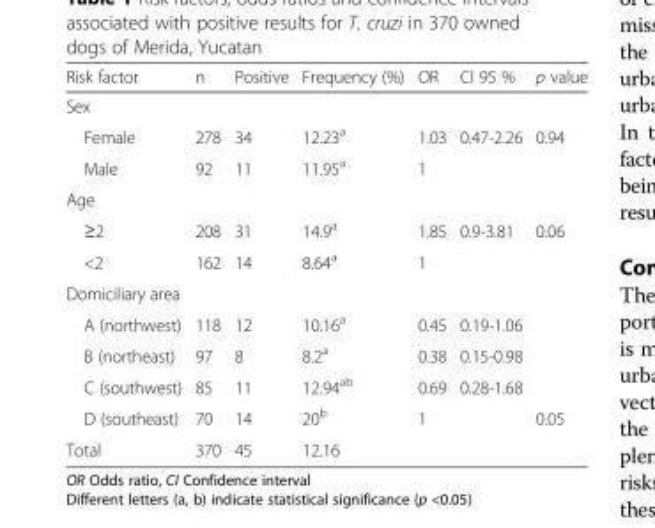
<table><thead><tr><td>Risk factor</td><td>n</td><td>Positive</td><td>Frequency (%)</td><td>OR</td><td>CI 95 %</td><td>p value</td></tr></thead><tbody><tr><td colspan="7">Sex</td></tr><tr><td>Female</td><td>278</td><td>34</td><td>12.23<sup>a</sup></td><td>1.03</td><td>0.47-2.26</td><td>0.94</td></tr><tr><td>Male</td><td>92</td><td>11</td><td>11.95<sup>a</sup></td><td>1</td><td></td><td></td></tr><tr><td colspan="7">Age</td></tr><tr><td>≥2</td><td>208</td><td>31</td><td>14.9<sup>a</sup></td><td>1.85</td><td>0.9-3.81</td><td>0.06</td></tr><tr><td>&lt;2</td><td>162</td><td>14</td><td>8.64<sup>a</sup></td><td>1</td><td></td><td></td></tr><tr><td colspan="7">Domiciliary area</td></tr><tr><td>A (northwest)</td><td>118</td><td>12</td><td>10.16<sup>a</sup></td><td>0.45</td><td>0.19-1.06</td><td></td></tr><tr><td>B (northeast)</td><td>97</td><td>8</td><td>8.2<sup>a</sup></td><td>0.38</td><td>0.15-0.98</td><td></td></tr><tr><td>C (southwest)</td><td>85</td><td>11</td><td>12.94<sup>ab</sup></td><td>0.69</td><td>0.28-1.68</td><td></td></tr><tr><td>D (southeast)</td><td>70</td><td>14</td><td>20<sup>b</sup></td><td>1</td><td></td><td>0.05</td></tr><tr><td>Total</td><td>370</td><td>45</td><td>12.16</td><td></td><td></td><td></td></tr></tbody></table>